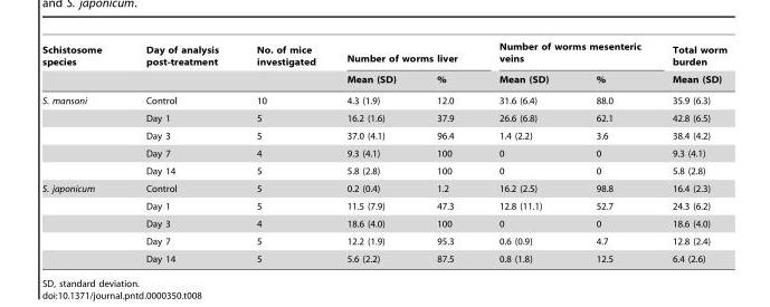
<table><thead><tr><td rowspan="2">Schistosome species</td><td rowspan="2">Day of analysis post-treatment</td><td rowspan="2">No. of mice investigated</td><td colspan="2">Number of worms liver</td><td colspan="2">Number of worms mesenteric veins</td><td rowspan="2">Total worm burden Mean (SD)</td></tr><tr><td>Mean (SD)</td><td>%</td><td>Mean (SD)</td><td>%</td></tr></thead><tbody><tr><td rowspan="5">S. mansoni</td><td>Control</td><td>10</td><td>4.3 (1.9)</td><td>12.0</td><td>31.6 (6.4)</td><td>88.0</td><td>35.9 (6.3)</td></tr><tr><td>Day 1</td><td>5</td><td>16.2 (1.6)</td><td>37.9</td><td>26.6 (6.8)</td><td>62.1</td><td>42.8 (6.5)</td></tr><tr><td>Day 3</td><td>5</td><td>37.0 (4.1)</td><td>96.4</td><td>1.4 (2.2)</td><td>3.6</td><td>38.4 (4.2)</td></tr><tr><td>Day 7</td><td>4</td><td>9.3 (4.1)</td><td>100</td><td>0</td><td>0</td><td>9.3 (4.1)</td></tr><tr><td>Day 14</td><td>5</td><td>5.8 (2.8)</td><td>100</td><td>0</td><td>0</td><td>5.8 (2.8)</td></tr><tr><td rowspan="5">S. japonicum</td><td>Control</td><td>5</td><td>0.2 (0.4)</td><td>1.2</td><td>16.2 (2.5)</td><td>98.8</td><td>16.4 (2.3)</td></tr><tr><td>Day 1</td><td>5</td><td>11.5 (7.9)</td><td>47.3</td><td>12.8 (11.1)</td><td>52.7</td><td>24.3 (6.2)</td></tr><tr><td>Day 3</td><td>4</td><td>18.6 (4.0)</td><td>100</td><td>0</td><td>0</td><td>18.6 (4.0)</td></tr><tr><td>Day 7</td><td>5</td><td>12.2 (1.9)</td><td>95.3</td><td>0.6 (0.9)</td><td>4.7</td><td>12.8 (2.4)</td></tr><tr><td>Day 14</td><td>5</td><td>5.6 (2.2)</td><td>87.5</td><td>0.8 (1.8)</td><td>12.5</td><td>6.4 (2.6)</td></tr></tbody></table>